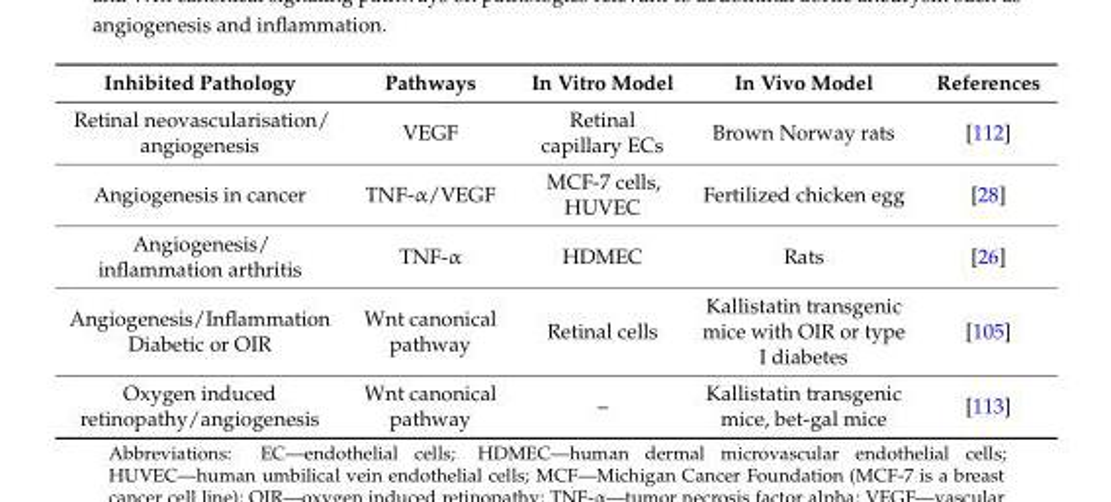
<table><thead><tr><td>Inhibited Pathology</td><td>Pathways</td><td>In Vitro Model</td><td>In Vivo Model</td><td>References</td></tr></thead><tbody><tr><td>Retinal neovascularisation/ angiogenesis</td><td>VEGF</td><td>Retinal capillary ECs</td><td>Brown Norway rats</td><td>[112]</td></tr><tr><td>Angiogenesis in cancer</td><td>TNF-α/VEGF</td><td>MCF-7 cells, HUVEC</td><td>Fertilized chicken egg</td><td>[28]</td></tr><tr><td>Angiogenesis/ inflammation arthritis</td><td>TNF-α</td><td>HDMEC</td><td>Rats</td><td>[26]</td></tr><tr><td>Angiogenesis/Inflammation Diabetic or OIR</td><td>Wnt canonical pathway</td><td>Retinal cells</td><td>Kallistatin transgenic mice with OIR or type I diabetes</td><td>[105]</td></tr><tr><td>Oxygen induced retinopathy/angiogenesis</td><td>Wnt canonical pathway</td><td>–</td><td>Kallistatin transgenic mice, bet-gal mice</td><td>[113]</td></tr></tbody></table>